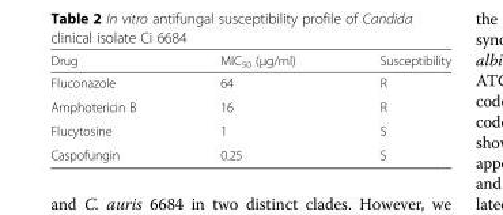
<table><thead><tr><td>Drug</td><td>MIC<sub>50</sub> (μg/ml)</td><td>Susceptibility</td></tr></thead><tbody><tr><td>Fluconazole</td><td>64</td><td>R</td></tr><tr><td>Amphotericin B</td><td>16</td><td>R</td></tr><tr><td>Flucytosine</td><td>1</td><td>S</td></tr><tr><td>Caspofungin</td><td>0.25</td><td>S</td></tr></tbody></table>